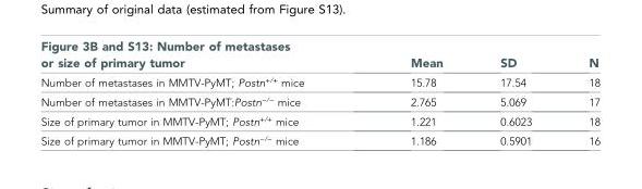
<table><thead><tr><td>Figure 3B and S13: Number of metastases or size of primary tumor</td><td>Mean</td><td>SD</td><td>N</td></tr></thead><tbody><tr><td>Number of metastases in MMTV-PyMT; Postn<sup>+/+</sup> mice</td><td>15.78</td><td>17.54</td><td>18</td></tr><tr><td>Number of metastases in MMTV-PyMT:Postn<sup>−/−</sup> mice</td><td>2.765</td><td>5.069</td><td>17</td></tr><tr><td>Size of primary tumor in MMTV-PyMT; Postn<sup>+/+</sup> mice</td><td>1.221</td><td>0.6023</td><td>18</td></tr><tr><td>Size of primary tumor in MMTV-PyMT; Postn<sup>−/−</sup> mice</td><td>1.186</td><td>0.5901</td><td>16</td></tr></tbody></table>